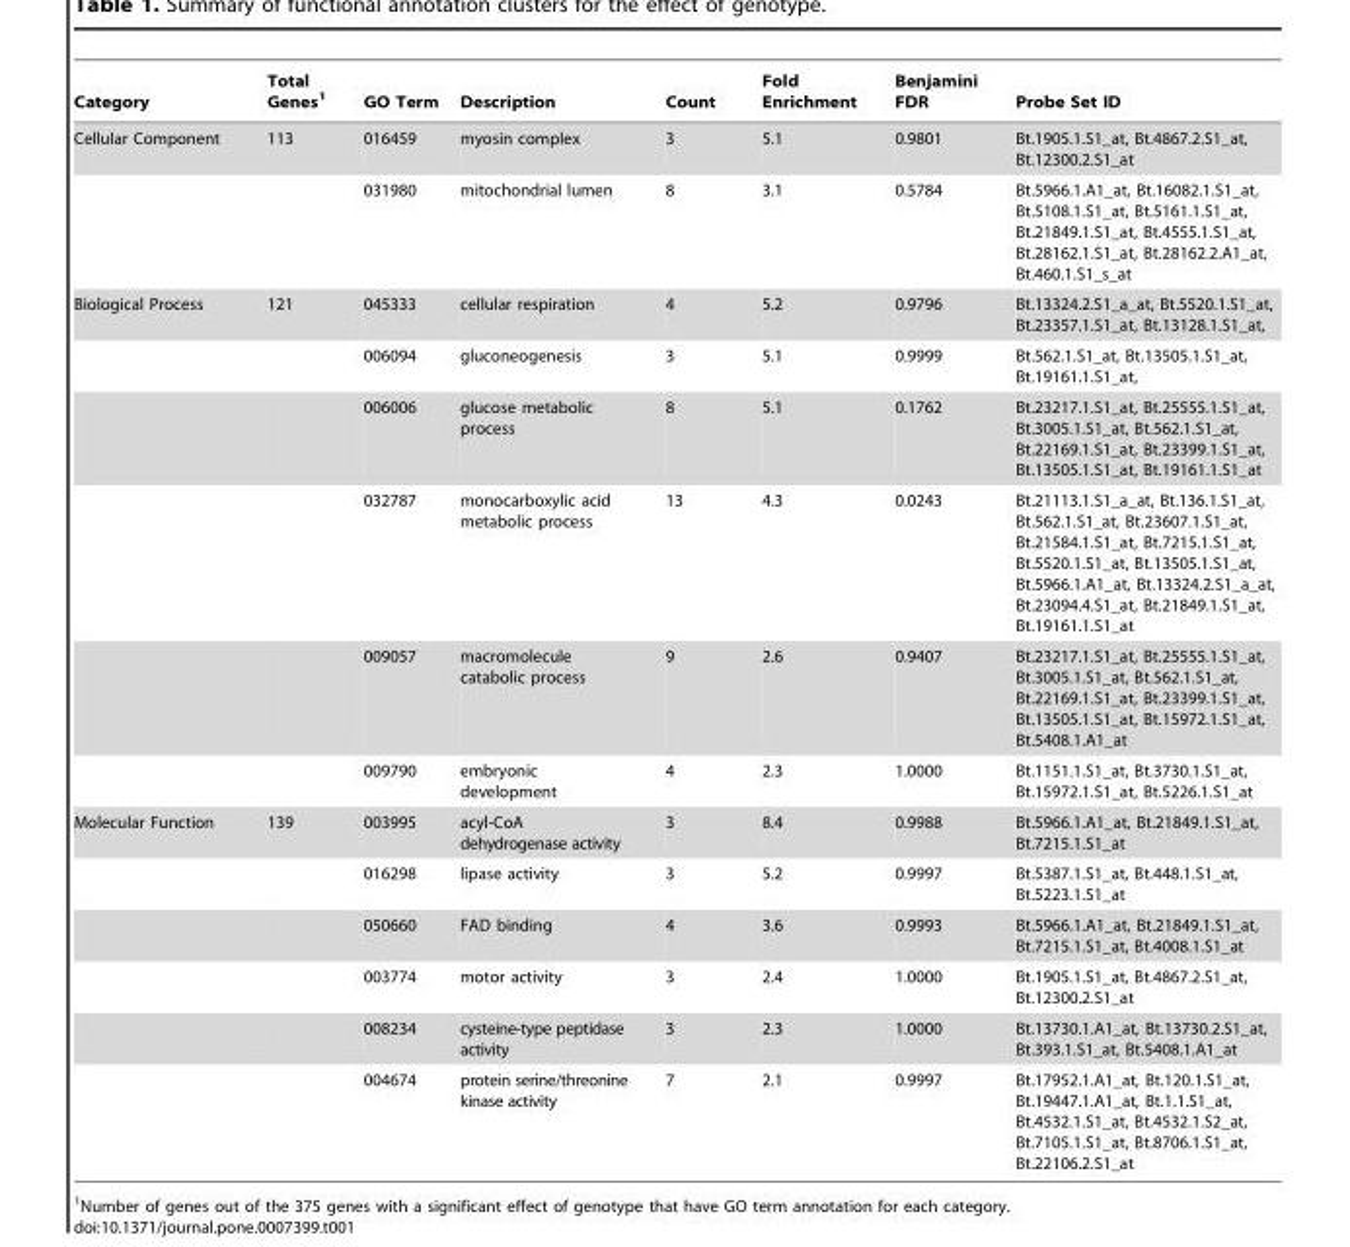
<table><thead><tr><td>Category</td><td>Total Genes<sup>1</sup></td><td>GO Term</td><td>Description</td><td>Count</td><td>Fold Enrichment</td><td>Benjamini FDR</td><td>Probe Set ID</td></tr></thead><tbody><tr><td rowspan="2">Cellular Component</td><td>113</td><td>016459</td><td>myosin complex</td><td>3</td><td>5.1</td><td>0.9801</td><td>Bt.1905.1.S1_at, Bt.4867.2.S1_at, Bt.12300.2.S1_at</td></tr><tr><td></td><td>031980</td><td>mitochondrial lumen</td><td>8</td><td>3.1</td><td>0.5784</td><td>Bt.5966.1.A1_at, Bt.16082.1.S1_at, Bt.5108.1.S1_at, Bt.5161.1.S1_at, Bt.21849.1.S1_at, Bt.4555.1.S1_at, Bt.28162.1.S1_at, Bt.28162.2.A1_at, Bt.460.1.S1_s_at</td></tr><tr><td rowspan="6">Biological Process</td><td>121</td><td>045333</td><td>cellular respiration</td><td>4</td><td>5.2</td><td>0.9796</td><td>Bt.13324.2.S1_a_at, Bt.5520.1.S1_at, Bt.23357.1.S1_at, Bt.13128.1.S1_at,</td></tr><tr><td></td><td>006094</td><td>gluconeogenesis</td><td>3</td><td>5.1</td><td>0.9999</td><td>Bt.562.1.S1_at, Bt.13505.1.S1_at, Bt.19161.1.S1_at,</td></tr><tr><td></td><td>006006</td><td>glucose metabolic process</td><td>8</td><td>5.1</td><td>0.1762</td><td>Bt.23217.1.S1_at, Bt.25555.1.S1_at, Bt.3005.1.S1_at, Bt.562.1.S1_at, Bt.22169.1.S1_at, Bt.23399.1.S1_at, Bt.13505.1.S1_at, Bt.19161.1.S1_at</td></tr><tr><td></td><td>032787</td><td>monocarboxylic acid metabolic process</td><td>13</td><td>4.3</td><td>0.0243</td><td>Bt.21113.1.S1_a_at, Bt.136.1.S1_at, Bt.562.1.S1_at, Bt.23607.1.S1_at, Bt.21584.1.S1_at, Bt.7215.1.S1_at, Bt.5520.1.S1_at, Bt.13505.1.S1_at, Bt.5966.1.A1_at, Bt.13324.2.S1_a_at, Bt.23094.4.S1_at, Bt.21849.1.S1_at, Bt.19161.1.S1_at</td></tr><tr><td></td><td>009057</td><td>macromolecule catabolic process</td><td>9</td><td>2.6</td><td>0.9407</td><td>Bt.23217.1.S1_at, Bt.25555.1.S1_at, Bt.3005.1.S1_at, Bt.562.1.S1_at, Bt.22169.1.S1_at, Bt.23399.1.S1_at, Bt.13505.1.S1_at, Bt.15972.1.S1_at, Bt.5408.1.A1_at</td></tr><tr><td></td><td>009790</td><td>embryonic development</td><td>4</td><td>2.3</td><td>1.0000</td><td>Bt.1151.1.S1_at, Bt.3730.1.S1_at, Bt.15972.1.S1_at, Bt.5226.1.S1_at</td></tr><tr><td rowspan="6">Molecular Function</td><td>139</td><td>003995</td><td>acyl-CoA dehydrogenase activity</td><td>3</td><td>8.4</td><td>0.9988</td><td>Bt.5966.1.A1_at, Bt.21849.1.S1_at, Bt.7215.1.S1_at</td></tr><tr><td></td><td>016298</td><td>lipase activity</td><td>3</td><td>5.2</td><td>0.9997</td><td>Bt.5387.1.S1_at, Bt.448.1.S1_at, Bt.5223.1.S1_at</td></tr><tr><td></td><td>050660</td><td>FAD binding</td><td>4</td><td>3.6</td><td>0.9993</td><td>Bt.5966.1.A1_at, Bt.21849.1.S1_at, Bt.7215.1.S1_at, Bt.4008.1.S1_at</td></tr><tr><td></td><td>003774</td><td>motor activity</td><td>3</td><td>2.4</td><td>1.0000</td><td>Bt.1905.1.S1_at, Bt.4867.2.S1_at, Bt.12300.2.S1_at</td></tr><tr><td></td><td>008234</td><td>cysteine-type peptidase activity</td><td>3</td><td>2.3</td><td>1.0000</td><td>Bt.13730.1.A1_at, Bt.13730.2.S1_at, Bt.393.1.S1_at, Bt.5408.1.A1_at</td></tr><tr><td></td><td>004674</td><td>protein serine/threonine kinase activity</td><td>7</td><td>2.1</td><td>0.9997</td><td>Bt.17952.1.A1_at, Bt.120.1.S1_at, Bt.19447.1.A1_at, Bt.1.1.S1_at, Bt.4532.1.S1_at, Bt.4532.1.S2_at, Bt.7105.1.S1_at, Bt.8706.1.S1_at, Bt.22106.2.S1_at</td></tr></tbody></table>